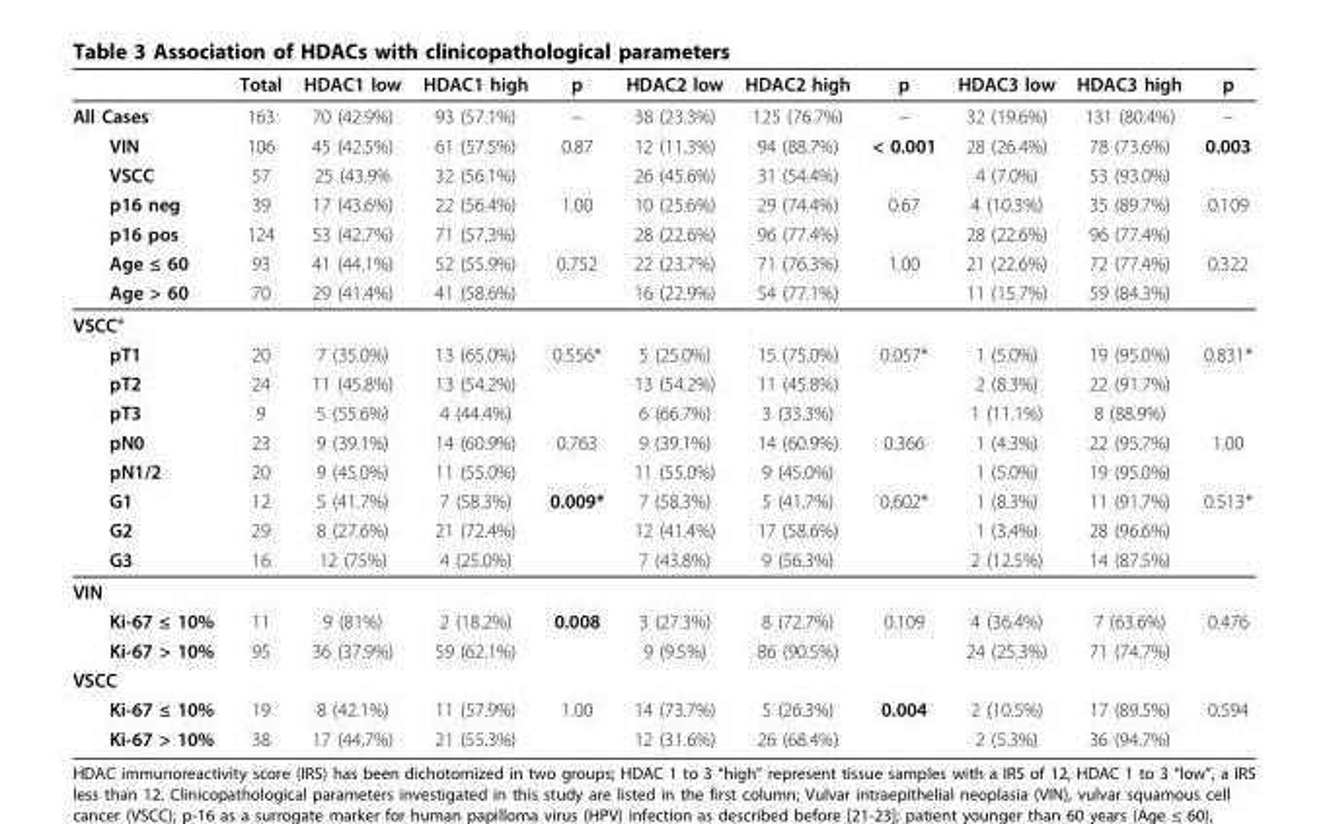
<table><thead><tr><td></td><td>Total</td><td>HDAC1 low</td><td>HDAC1 high</td><td>p</td><td>HDAC2 low</td><td>HDAC2 high</td><td>p</td><td>HDAC3 low</td><td>HDAC3 high</td><td>p</td></tr></thead><tbody><tr><td>All Cases</td><td>163</td><td>70 (42.9%)</td><td>93 (57.1%)</td><td>–</td><td>38 (23.3%)</td><td>125 (76.7%)</td><td>–</td><td>32 (19.6%)</td><td>131 (80.4%)</td><td>–</td></tr><tr><td>VIN</td><td>106</td><td>45 (42.5%)</td><td>61 (57.5%)</td><td>0.87</td><td>12 (11.3%)</td><td>94 (88.7%)</td><td>&lt; 0.001</td><td>28 (26.4%)</td><td>78 (73.6%)</td><td>0.003</td></tr><tr><td>VSCC</td><td>57</td><td>25 (43.9%</td><td>32 (56.1%)</td><td></td><td>26 (45.6%)</td><td>31 (54.4%)</td><td></td><td>4 (7.0%)</td><td>53 (93.0%)</td><td></td></tr><tr><td>p16 neg</td><td>39</td><td>17 (43.6%)</td><td>22 (56.4%)</td><td>1.00</td><td>10 (25.6%)</td><td>29 (74.4%)</td><td>0.67</td><td>4 (10.3%)</td><td>35 (89.7%)</td><td>0.109</td></tr><tr><td>p16 pos</td><td>124</td><td>53 (42.7%)</td><td>71 (57.3%)</td><td></td><td>28 (22.6%)</td><td>96 (77.4%)</td><td></td><td>28 (22.6%)</td><td>96 (77.4%)</td><td></td></tr><tr><td>Age ≤ 60</td><td>93</td><td>41 (44.1%)</td><td>52 (55.9%)</td><td>0.752</td><td>22 (23.7%)</td><td>71 (76.3%)</td><td>1.00</td><td>21 (22.6%)</td><td>72 (77.4%)</td><td>0.322</td></tr><tr><td>Age &gt; 60</td><td>70</td><td>29 (41.4%)</td><td>41 (58.6%)</td><td></td><td>16 (22.9%)</td><td>54 (77.1%)</td><td></td><td>11 (15.7%)</td><td>59 (84.3%)</td><td></td></tr><tr><td colspan="11">VSCC°</td></tr><tr><td>pT1</td><td>20</td><td>7 (35.0%)</td><td>13 (65.0%)</td><td>0.556*</td><td>5 (25.0%)</td><td>15 (75.0%)</td><td>0.057*</td><td>1 (5.0%)</td><td>19 (95.0%)</td><td>0.831*</td></tr><tr><td>pT2</td><td>24</td><td>11 (45.8%)</td><td>13 (54.2%)</td><td></td><td>13 (54.2%)</td><td>11 (45.8%)</td><td></td><td>2 (8.3%)</td><td>22 (91.7%)</td><td></td></tr><tr><td>pT3</td><td>9</td><td>5 (55.6%)</td><td>4 (44.4%)</td><td></td><td>6 (66.7%)</td><td>3 (33.3%)</td><td></td><td>1 (11.1%)</td><td>8 (88.9%)</td><td></td></tr><tr><td>pN0</td><td>23</td><td>9 (39.1%)</td><td>14 (60.9%)</td><td>0.763</td><td>9 (39.1%)</td><td>14 (60.9%)</td><td>0.366</td><td>1 (4.3%)</td><td>22 (95.7%)</td><td>1.00</td></tr><tr><td>pN1/2</td><td>20</td><td>9 (45.0%)</td><td>11 (55.0%)</td><td></td><td>11 (55.0%)</td><td>9 (45.0%)</td><td></td><td>1 (5.0%)</td><td>19 (95.0%)</td><td></td></tr><tr><td>G1</td><td>12</td><td>5 (41.7%)</td><td>7 (58.3%)</td><td>0.009*</td><td>7 (58.3%)</td><td>5 (41.7%)</td><td>0.602*</td><td>1 (8.3%)</td><td>11 (91.7%)</td><td>0.513*</td></tr><tr><td>G2</td><td>29</td><td>8 (27.6%)</td><td>21 (72.4%)</td><td></td><td>12 (41.4%)</td><td>17 (58.6%)</td><td></td><td>1 (3.4%)</td><td>28 (96.6%)</td><td></td></tr><tr><td>G3</td><td>16</td><td>12 (75%)</td><td>4 (25.0%)</td><td></td><td>7 (43.8%)</td><td>9 (56.3%)</td><td></td><td>2 (12.5%)</td><td>14 (87.5%)</td><td></td></tr><tr><td colspan="11">VIN</td></tr><tr><td>Ki-67 ≤ 10%</td><td>11</td><td>9 (81%)</td><td>2 (18.2%)</td><td>0.008</td><td>3 (27.3%)</td><td>8 (72.7%)</td><td>0.109</td><td>4 (36.4%)</td><td>7 (63.6%)</td><td>0.476</td></tr><tr><td>Ki-67 &gt; 10%</td><td>95</td><td>36 (37.9%)</td><td>59 (62.1%)</td><td></td><td>9 (9.5%)</td><td>86 (90.5%)</td><td></td><td>24 (25.3%)</td><td>71 (74.7%)</td><td></td></tr><tr><td colspan="11">VSCC</td></tr><tr><td>Ki-67 ≤ 10%</td><td>19</td><td>8 (42.1%)</td><td>11 (57.9%)</td><td>1.00</td><td>14 (73.7%)</td><td>5 (26.3%)</td><td>0.004</td><td>2 (10.5%)</td><td>17 (89.5%)</td><td>0.594</td></tr><tr><td>Ki-67 &gt; 10%</td><td>38</td><td>17 (44.7%)</td><td>21 (55.3%)</td><td></td><td>12 (31.6%)</td><td>26 (68.4%)</td><td></td><td>2 (5.3%)</td><td>36 (94.7%)</td><td></td></tr></tbody></table>